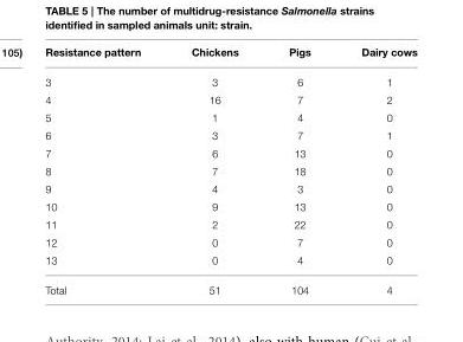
<table><thead><tr><td>Resistance pattern</td><td>Chickens</td><td>Pigs</td><td>Dairy cows</td></tr></thead><tbody><tr><td>3</td><td>3</td><td>6</td><td>1</td></tr><tr><td>4</td><td>16</td><td>7</td><td>2</td></tr><tr><td>5</td><td>1</td><td>4</td><td>0</td></tr><tr><td>6</td><td>3</td><td>7</td><td>1</td></tr><tr><td>7</td><td>6</td><td>13</td><td>0</td></tr><tr><td>8</td><td>7</td><td>18</td><td>0</td></tr><tr><td>9</td><td>4</td><td>3</td><td>0</td></tr><tr><td>10</td><td>9</td><td>13</td><td>0</td></tr><tr><td>11</td><td>2</td><td>22</td><td>0</td></tr><tr><td>12</td><td>0</td><td>7</td><td>0</td></tr><tr><td>13</td><td>0</td><td>4</td><td>0</td></tr><tr><td>Total</td><td>51</td><td>104</td><td>4</td></tr></tbody></table>